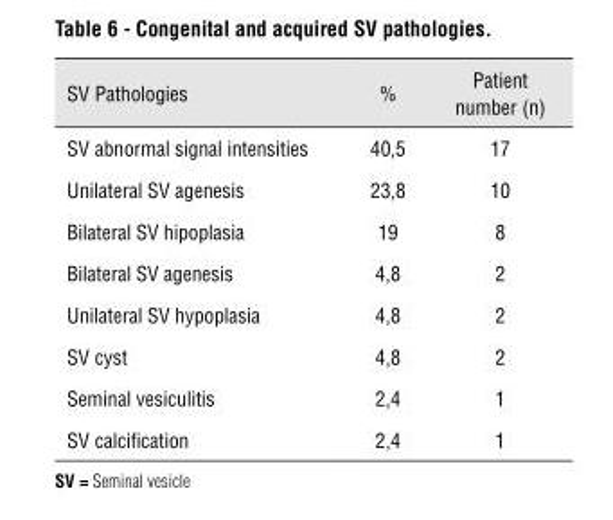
<table><thead><tr><td>SV Pathologies</td><td>%</td><td>Patient number (n)</td></tr></thead><tbody><tr><td>SV abnormal signal intensities</td><td>40,5</td><td>17</td></tr><tr><td>Unilateral SV agenesis</td><td>23,8</td><td>10</td></tr><tr><td>Bilateral SV hipoplasia</td><td>19</td><td>8</td></tr><tr><td>Bilateral SV agenesis</td><td>4,8</td><td>2</td></tr><tr><td>Unilateral SV hypoplasia</td><td>4,8</td><td>2</td></tr><tr><td>SV cyst</td><td>4,8</td><td>2</td></tr><tr><td>Seminal vesiculitis</td><td>2,4</td><td>1</td></tr><tr><td>SV calcification</td><td>2,4</td><td>1</td></tr></tbody></table>